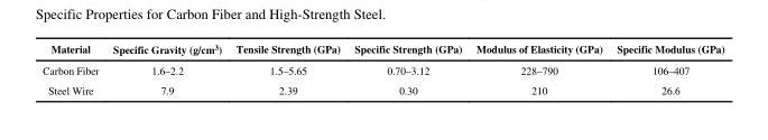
<table><thead><tr><td>Material</td><td>Specific Gravity (g/cm<sup>3</sup>)</td><td>Tensile Strength (GPa)</td><td>Specific Strength (GPa)</td><td>Modulus of Elasticity (GPa)</td><td>Specific Modulus (GPa)</td></tr></thead><tbody><tr><td>Carbon Fiber</td><td>1.6–2.2</td><td>1.5–5.65</td><td>0.70–3.12</td><td>228–790</td><td>106–407</td></tr><tr><td>Steel Wire</td><td>7.9</td><td>2.39</td><td>0.30</td><td>210</td><td>26.6</td></tr></tbody></table>